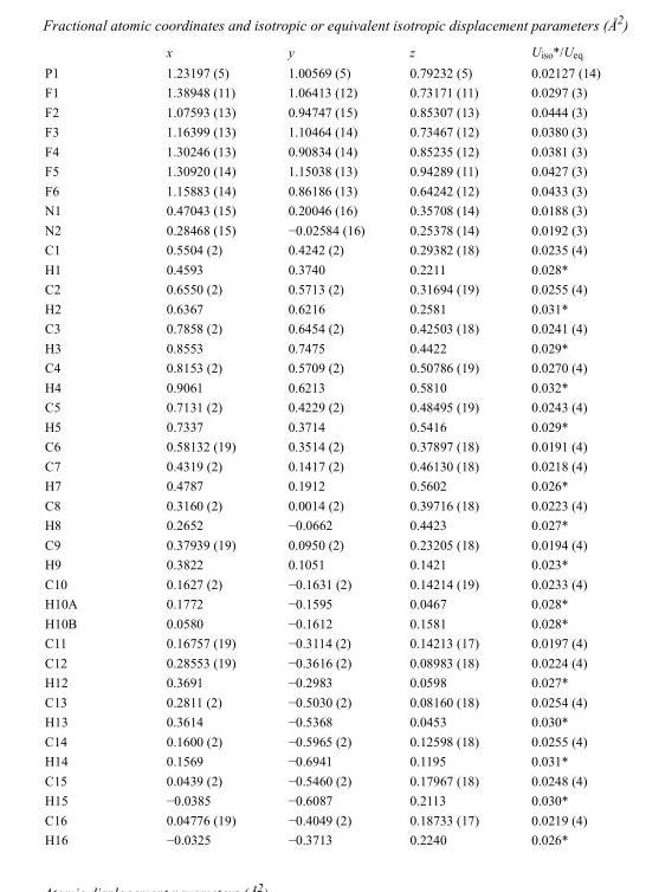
<table><thead><tr><td></td><td>x</td><td>y</td><td>z</td><td>U<sub>iso</sub>*/U<sub>eq</sub></td></tr></thead><tbody><tr><td>P1</td><td>1.23197 (5)</td><td>1.00569 (5)</td><td>0.79232 (5)</td><td>0.02127 (14)</td></tr><tr><td>F1</td><td>1.38948 (11)</td><td>1.06413 (12)</td><td>0.73171 (11)</td><td>0.0297 (3)</td></tr><tr><td>F2</td><td>1.07593 (13)</td><td>0.94747 (15)</td><td>0.85307 (13)</td><td>0.0444 (3)</td></tr><tr><td>F3</td><td>1.16399 (13)</td><td>1.10464 (14)</td><td>0.73467 (12)</td><td>0.0380 (3)</td></tr><tr><td>F4</td><td>1.30246 (13)</td><td>0.90834 (14)</td><td>0.85235 (12)</td><td>0.0381 (3)</td></tr><tr><td>F5</td><td>1.30920 (14)</td><td>1.15038 (13)</td><td>0.94289 (11)</td><td>0.0427 (3)</td></tr><tr><td>F6</td><td>1.15883 (14)</td><td>0.86186 (13)</td><td>0.64242 (12)</td><td>0.0433 (3)</td></tr><tr><td>N1</td><td>0.47043 (15)</td><td>0.20046 (16)</td><td>0.35708 (14)</td><td>0.0188 (3)</td></tr><tr><td>N2</td><td>0.28468 (15)</td><td>−0.02584 (16)</td><td>0.25378 (14)</td><td>0.0192 (3)</td></tr><tr><td>C1</td><td>0.5504 (2)</td><td>0.4242 (2)</td><td>0.29382 (18)</td><td>0.0235 (4)</td></tr><tr><td>H1</td><td>0.4593</td><td>0.3740</td><td>0.2211</td><td>0.028*</td></tr><tr><td>C2</td><td>0.6550 (2)</td><td>0.5713 (2)</td><td>0.31694 (19)</td><td>0.0255 (4)</td></tr><tr><td>H2</td><td>0.6367</td><td>0.6216</td><td>0.2581</td><td>0.031*</td></tr><tr><td>C3</td><td>0.7858 (2)</td><td>0.6454 (2)</td><td>0.42503 (18)</td><td>0.0241 (4)</td></tr><tr><td>H3</td><td>0.8553</td><td>0.7475</td><td>0.4422</td><td>0.029*</td></tr><tr><td>C4</td><td>0.8153 (2)</td><td>0.5709 (2)</td><td>0.50786 (19)</td><td>0.0270 (4)</td></tr><tr><td>H4</td><td>0.9061</td><td>0.6213</td><td>0.5810</td><td>0.032*</td></tr><tr><td>C5</td><td>0.7131 (2)</td><td>0.4229 (2)</td><td>0.48495 (19)</td><td>0.0243 (4)</td></tr><tr><td>H5</td><td>0.7337</td><td>0.3714</td><td>0.5416</td><td>0.029*</td></tr><tr><td>C6</td><td>0.58132 (19)</td><td>0.3514 (2)</td><td>0.37897 (18)</td><td>0.0191 (4)</td></tr><tr><td>C7</td><td>0.4319 (2)</td><td>0.1417 (2)</td><td>0.46130 (18)</td><td>0.0218 (4)</td></tr><tr><td>H7</td><td>0.4787</td><td>0.1912</td><td>0.5602</td><td>0.026*</td></tr><tr><td>C8</td><td>0.3160 (2)</td><td>0.0014 (2)</td><td>0.39716 (18)</td><td>0.0223 (4)</td></tr><tr><td>H8</td><td>0.2652</td><td>−0.0662</td><td>0.4423</td><td>0.027*</td></tr><tr><td>C9</td><td>0.37939 (19)</td><td>0.0950 (2)</td><td>0.23205 (18)</td><td>0.0194 (4)</td></tr><tr><td>H9</td><td>0.3822</td><td>0.1051</td><td>0.1421</td><td>0.023*</td></tr><tr><td>C10</td><td>0.1627 (2)</td><td>−0.1631 (2)</td><td>0.14214 (19)</td><td>0.0233 (4)</td></tr><tr><td>H10A</td><td>0.1772</td><td>−0.1595</td><td>0.0467</td><td>0.028*</td></tr><tr><td>H10B</td><td>0.0580</td><td>−0.1612</td><td>0.1581</td><td>0.028*</td></tr><tr><td>C11</td><td>0.16757 (19)</td><td>−0.3114 (2)</td><td>0.14213 (17)</td><td>0.0197 (4)</td></tr><tr><td>C12</td><td>0.28553 (19)</td><td>−0.3616 (2)</td><td>0.08983 (18)</td><td>0.0224 (4)</td></tr><tr><td>H12</td><td>0.3691</td><td>−0.2983</td><td>0.0598</td><td>0.027*</td></tr><tr><td>C13</td><td>0.2811 (2)</td><td>−0.5030 (2)</td><td>0.08160 (18)</td><td>0.0254 (4)</td></tr><tr><td>H13</td><td>0.3614</td><td>−0.5368</td><td>0.0453</td><td>0.030*</td></tr><tr><td>C14</td><td>0.1600 (2)</td><td>−0.5965 (2)</td><td>0.12598 (18)</td><td>0.0255 (4)</td></tr><tr><td>H14</td><td>0.1569</td><td>−0.6941</td><td>0.1195</td><td>0.031*</td></tr><tr><td>C15</td><td>0.0439 (2)</td><td>−0.5460 (2)</td><td>0.17967 (18)</td><td>0.0248 (4)</td></tr><tr><td>H15</td><td>−0.0385</td><td>−0.6087</td><td>0.2113</td><td>0.030*</td></tr><tr><td>C16</td><td>0.04776 (19)</td><td>−0.4049 (2)</td><td>0.18733 (17)</td><td>0.0219 (4)</td></tr><tr><td>H16</td><td>−0.0325</td><td>−0.3713</td><td>0.2240</td><td>0.026*</td></tr></tbody></table>